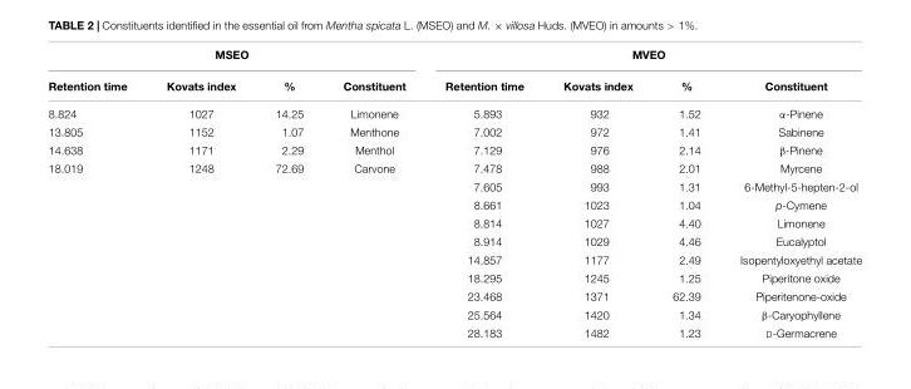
<table><thead><tr><td colspan="4">MSEO</td><td colspan="4">MVEO</td></tr><tr><td>Retention time</td><td>Kovats index</td><td>%</td><td>Constituent</td><td>Retention time</td><td>Kovats index</td><td>%</td><td>Constituent</td></tr></thead><tbody><tr><td>8.824</td><td>1027</td><td>14.25</td><td>Limonene</td><td>5.893</td><td>932</td><td>1.52</td><td>α-Pinene</td></tr><tr><td>13.805</td><td>1152</td><td>1.07</td><td>Menthone</td><td>7.002</td><td>972</td><td>1.41</td><td>Sabinene</td></tr><tr><td>14.638</td><td>1171</td><td>2.29</td><td>Menthol</td><td>7.129</td><td>976</td><td>2.14</td><td>β-Pinene</td></tr><tr><td rowspan="10">18.019</td><td>1248</td><td>72.69</td><td>Carvone</td><td>7.478</td><td>988</td><td>2.01</td><td>Myrcene</td></tr><tr><td></td><td></td><td></td><td>7.605</td><td>993</td><td>1.31</td><td>6-Methyl-5-hepten-2-ol</td></tr><tr><td></td><td></td><td></td><td>8.661</td><td>1023</td><td>1.04</td><td>p-Cymene</td></tr><tr><td></td><td></td><td></td><td>8.814</td><td>1027</td><td>4.40</td><td>Limonene</td></tr><tr><td></td><td></td><td></td><td>8.914</td><td>1029</td><td>4.46</td><td>Eucalyptol</td></tr><tr><td></td><td></td><td></td><td>14.857</td><td>1177</td><td>2.49</td><td>Isopentyloxyethyl acetate</td></tr><tr><td></td><td></td><td></td><td>18.295</td><td>1245</td><td>1.25</td><td>Piperitone oxide</td></tr><tr><td></td><td></td><td></td><td>23.468</td><td>1371</td><td>62.39</td><td>Piperitenone-oxide</td></tr><tr><td></td><td></td><td></td><td>25.564</td><td>1420</td><td>1.34</td><td>β-Caryophyllene</td></tr><tr><td></td><td></td><td></td><td>28.183</td><td>1482</td><td>1.23</td><td>D-Germacrene</td></tr></tbody></table>